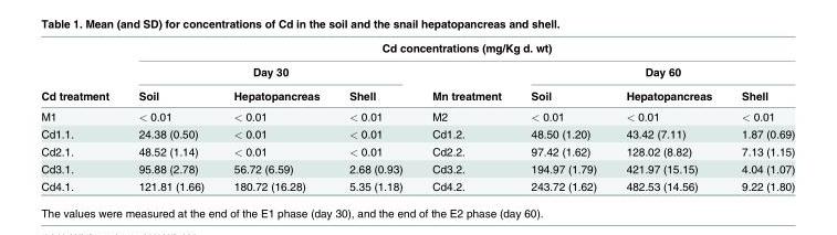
<table><thead><tr><td rowspan="3">Cd treatment</td><td colspan="7">Cd concentrations (mg/Kg d. wt)</td></tr><tr><td colspan="3">Day 30</td><td rowspan="2">Mn treatment</td><td colspan="3">Day 60</td></tr><tr><td>Soil</td><td>Hepatopancreas</td><td>Shell</td><td>Soil</td><td>Hepatopancreas</td><td>Shell</td></tr></thead><tbody><tr><td>M1</td><td>&lt; 0.01</td><td>&lt; 0.01</td><td>&lt; 0.01</td><td>M2</td><td>&lt; 0.01</td><td>&lt; 0.01</td><td>&lt; 0.01</td></tr><tr><td>Cd1.1.</td><td>24.38 (0.50)</td><td>&lt; 0.01</td><td>&lt; 0.01</td><td>Cd1.2.</td><td>48.50 (1.20)</td><td>43.42 (7.11)</td><td>1.87 (0.69)</td></tr><tr><td>Cd2.1.</td><td>48.52 (1.14)</td><td>&lt; 0.01</td><td>&lt; 0.01</td><td>Cd2.2.</td><td>97.42 (1.62)</td><td>128.02 (8.82)</td><td>7.13 (1.15)</td></tr><tr><td>Cd3.1.</td><td>95.88 (2.78)</td><td>56.72 (6.59)</td><td>2.68 (0.93)</td><td>Cd3.2.</td><td>194.97 (1.79)</td><td>421.97 (15.15)</td><td>4.04 (1.07)</td></tr><tr><td>Cd4.1.</td><td>121.81 (1.66)</td><td>180.72 (16.28)</td><td>5.35 (1.18)</td><td>Cd4.2.</td><td>243.72 (1.62)</td><td>482.53 (14.56)</td><td>9.22 (1.80)</td></tr></tbody></table>